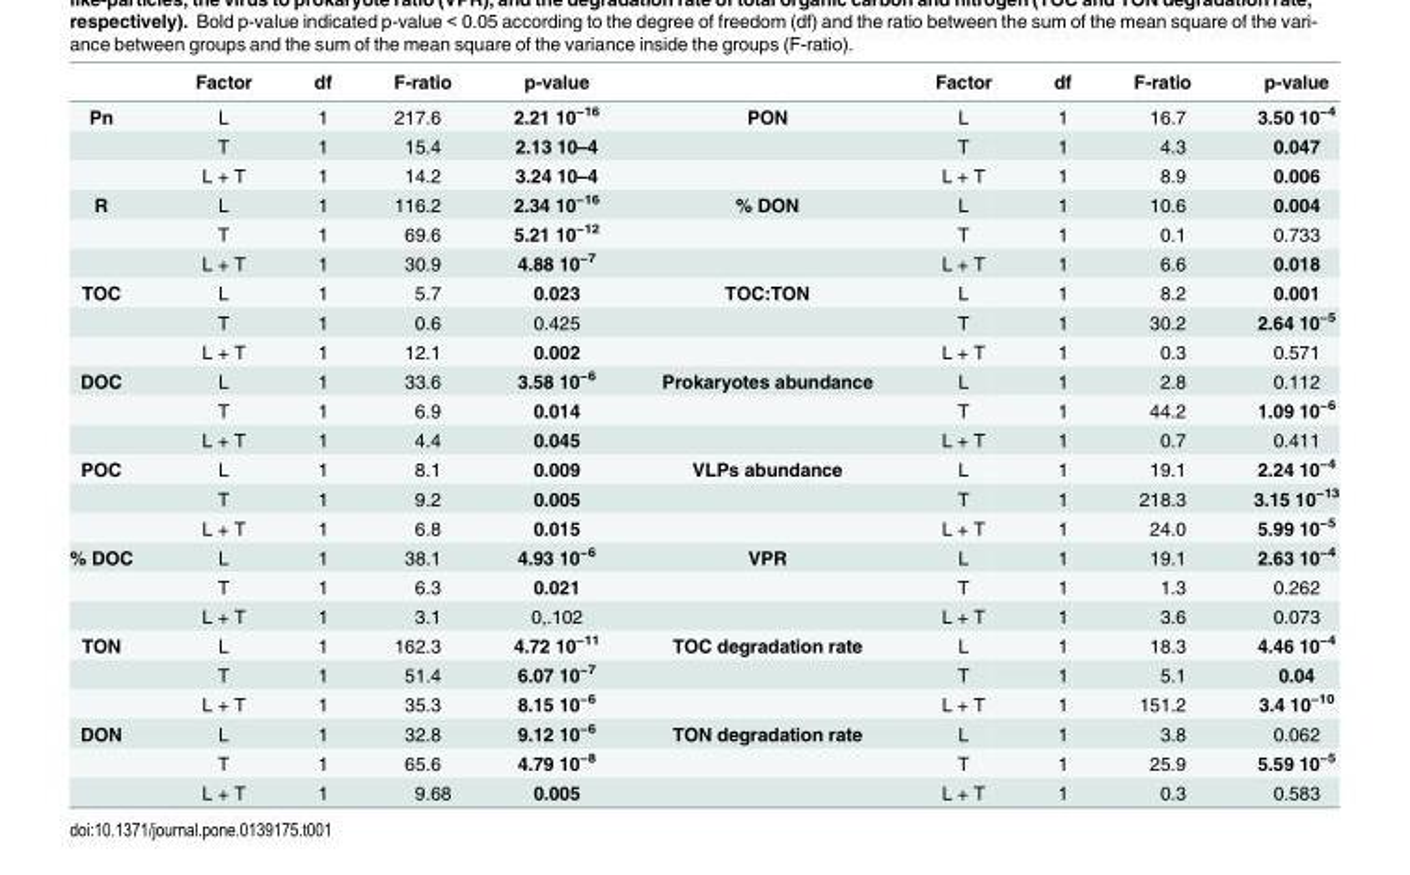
<table><thead><tr><td></td><td>Factor</td><td>df</td><td>F-ratio</td><td>p-value</td><td></td><td>Factor</td><td>df</td><td>F-ratio</td><td>p-value</td></tr></thead><tbody><tr><td rowspan="3">Pn</td><td>L</td><td>1</td><td>217.6</td><td>2.21 10<sup>−16</sup></td><td>PON</td><td>L</td><td>1</td><td>16.7</td><td>3.50 10<sup>−4</sup></td></tr><tr><td>T</td><td>1</td><td>15.4</td><td>2.13 10–4</td><td></td><td>T</td><td>1</td><td>4.3</td><td>0.047</td></tr><tr><td>L + T</td><td>1</td><td>14.2</td><td>3.24 10–4</td><td></td><td>L + T</td><td>1</td><td>8.9</td><td>0.006</td></tr><tr><td rowspan="3">R</td><td>L</td><td>1</td><td>116.2</td><td>2.34 10<sup>−16</sup></td><td>% DON</td><td>L</td><td>1</td><td>10.6</td><td>0.004</td></tr><tr><td>T</td><td>1</td><td>69.6</td><td>5.21 10<sup>−12</sup></td><td></td><td>T</td><td>1</td><td>0.1</td><td>0.733</td></tr><tr><td>L + T</td><td>1</td><td>30.9</td><td>4.88 10<sup>−7</sup></td><td></td><td>L + T</td><td>1</td><td>6.6</td><td>0.018</td></tr><tr><td rowspan="3">TOC</td><td>L</td><td>1</td><td>5.7</td><td>0.023</td><td>TOC:TON</td><td>L</td><td>1</td><td>8.2</td><td>0.001</td></tr><tr><td>T</td><td>1</td><td>0.6</td><td>0.425</td><td></td><td>T</td><td>1</td><td>30.2</td><td>2.64 10<sup>−5</sup></td></tr><tr><td>L + T</td><td>1</td><td>12.1</td><td>0.002</td><td></td><td>L + T</td><td>1</td><td>0.3</td><td>0.571</td></tr><tr><td rowspan="3">DOC</td><td>L</td><td>1</td><td>33.6</td><td>3.58 10<sup>−6</sup></td><td>Prokaryotes abundance</td><td>L</td><td>1</td><td>2.8</td><td>0.112</td></tr><tr><td>T</td><td>1</td><td>6.9</td><td>0.014</td><td></td><td>T</td><td>1</td><td>44.2</td><td>1.09 10<sup>−6</sup></td></tr><tr><td>L + T</td><td>1</td><td>4.4</td><td>0.045</td><td></td><td>L + T</td><td>1</td><td>0.7</td><td>0.411</td></tr><tr><td rowspan="3">POC</td><td>L</td><td>1</td><td>8.1</td><td>0.009</td><td>VLPs abundance</td><td>L</td><td>1</td><td>19.1</td><td>2.24 10<sup>−4</sup></td></tr><tr><td>T</td><td>1</td><td>9.2</td><td>0.005</td><td></td><td>T</td><td>1</td><td>218.3</td><td>3.15 10<sup>−13</sup></td></tr><tr><td>L + T</td><td>1</td><td>6.8</td><td>0.015</td><td></td><td>L + T</td><td>1</td><td>24.0</td><td>5.99 10<sup>−5</sup></td></tr><tr><td rowspan="3">% DOC</td><td>L</td><td>1</td><td>38.1</td><td>4.93 10<sup>−6</sup></td><td>VPR</td><td>L</td><td>1</td><td>19.1</td><td>2.63 10<sup>−4</sup></td></tr><tr><td>T</td><td>1</td><td>6.3</td><td>0.021</td><td></td><td>T</td><td>1</td><td>1.3</td><td>0.262</td></tr><tr><td>L + T</td><td>1</td><td>3.1</td><td>0,.102</td><td></td><td>L + T</td><td>1</td><td>3.6</td><td>0.073</td></tr><tr><td rowspan="3">TON</td><td>L</td><td>1</td><td>162.3</td><td>4.72 10<sup>−11</sup></td><td>TOC degradation rate</td><td>L</td><td>1</td><td>18.3</td><td>4.46 10<sup>−4</sup></td></tr><tr><td>T</td><td>1</td><td>51.4</td><td>6.07 10<sup>−7</sup></td><td></td><td>T</td><td>1</td><td>5.1</td><td>0.04</td></tr><tr><td>L + T</td><td>1</td><td>35.3</td><td>8.15 10<sup>−6</sup></td><td></td><td>L + T</td><td>1</td><td>151.2</td><td>3.4 10<sup>−10</sup></td></tr><tr><td rowspan="3">DON</td><td>L</td><td>1</td><td>32.8</td><td>9.12 10<sup>−6</sup></td><td>TON degradation rate</td><td>L</td><td>1</td><td>3.8</td><td>0.062</td></tr><tr><td>T</td><td>1</td><td>65.6</td><td>4.79 10<sup>−8</sup></td><td></td><td>T</td><td>1</td><td>25.9</td><td>5.59 10<sup>−5</sup></td></tr><tr><td>L + T</td><td>1</td><td>9.68</td><td>0.005</td><td></td><td>L + T</td><td>1</td><td>0.3</td><td>0.583</td></tr></tbody></table>